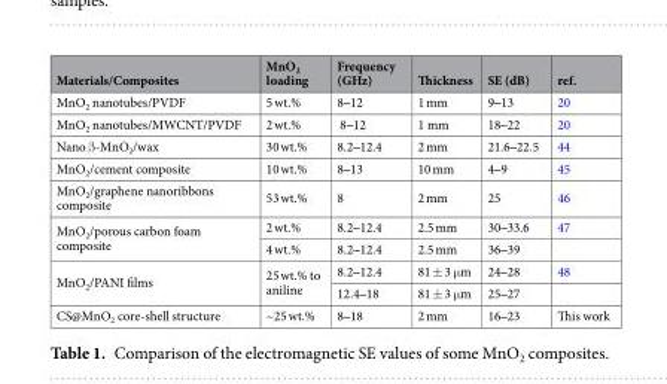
<table><thead><tr><td>Materials/Composites</td><td>MnO<sub>2</sub> loading</td><td>Frequency (GHz)</td><td>Thickness</td><td>SE (dB)</td><td>ref.</td></tr></thead><tbody><tr><td>MnO<sub>2</sub> nanotubes/PVDF</td><td>5 wt.%</td><td>8‒12</td><td>1 mm</td><td>9‒13</td><td>20</td></tr><tr><td>MnO<sub>2</sub> nanotubes/MWCNT/PVDF</td><td>2 wt.%</td><td>8‒12</td><td>1 mm</td><td>18‒22</td><td>20</td></tr><tr><td>Nano β-MnO<sub>2</sub>/wax</td><td>30 wt.%</td><td>8.2‒12.4</td><td>2 mm</td><td>21.6‒22.5</td><td>44</td></tr><tr><td>MnO<sub>2</sub>/cement composite</td><td>10 wt.%</td><td>8‒13</td><td>10 mm</td><td>4‒9</td><td>45</td></tr><tr><td>MnO<sub>2</sub>/graphene nanoribbons composite</td><td>53 wt.%</td><td>8</td><td>2 mm</td><td>25</td><td>46</td></tr><tr><td rowspan="2">MnO<sub>2</sub>/porous carbon foam composite</td><td>2 wt.%</td><td>8.2‒12.4</td><td>2.5 mm</td><td>30‒33.6</td><td>47</td></tr><tr><td>4 wt.%</td><td>8.2‒12.4</td><td>2.5 mm</td><td>36‒39</td><td></td></tr><tr><td rowspan="2">MnO<sub>2</sub>/PANI films</td><td rowspan="2">25 wt.% to aniline</td><td>8.2‒12.4</td><td>81 ± 3 μm</td><td>24‒28</td><td>48</td></tr><tr><td>12.4‒18</td><td>81 ± 3 μm</td><td>25‒27</td><td></td></tr><tr><td>CS@MnO<sub>2</sub> core-shell structure</td><td>~25 wt.%</td><td>8‒18</td><td>2 mm</td><td>16‒23</td><td>This work</td></tr></tbody></table>